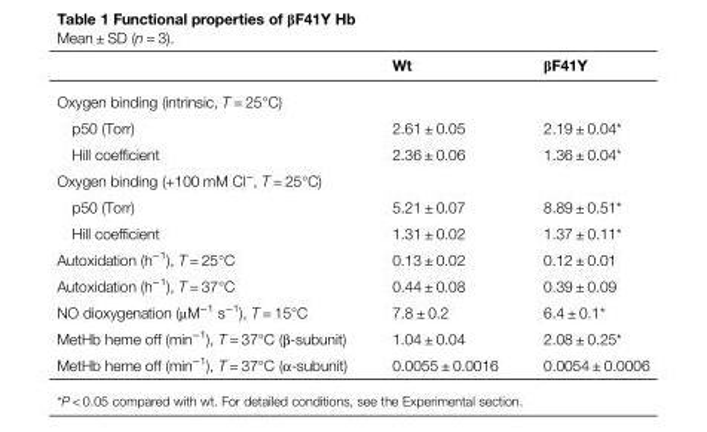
<table><thead><tr><td></td><td>Wt</td><td>βF41Y</td></tr></thead><tbody><tr><td colspan="3">Oxygen binding (intrinsic, T = 25°C)</td></tr><tr><td>p50 (Torr)</td><td>2.61 ± 0.05</td><td>2.19 ± 0.04*</td></tr><tr><td>Hill coefficient</td><td>2.36 ± 0.06</td><td>1.36 ± 0.04*</td></tr><tr><td colspan="3">Oxygen binding (+100 mM Cl<sup>−</sup>, T = 25°C)</td></tr><tr><td>p50 (Torr)</td><td>5.21 ± 0.07</td><td>8.89 ± 0.51*</td></tr><tr><td>Hill coefficient</td><td>1.31 ± 0.02</td><td>1.37 ± 0.11*</td></tr><tr><td>Autoxidation (h<sup>−1</sup>), T = 25°C</td><td>0.13 ± 0.02</td><td>0.12 ± 0.01</td></tr><tr><td>Autoxidation (h<sup>−1</sup>), T = 37°C</td><td>0.44 ± 0.08</td><td>0.39 ± 0.09</td></tr><tr><td>NO dioxygenation (μM<sup>−1</sup> s<sup>−1</sup>), T = 15°C</td><td>7.8 ± 0.2</td><td>6.4 ± 0.1*</td></tr><tr><td>MetHb heme off (min<sup>−1</sup>), T = 37°C (β-subunit)</td><td>1.04 ± 0.04</td><td>2.08 ± 0.25*</td></tr><tr><td>MetHb heme off (min<sup>−1</sup>), T = 37°C (α-subunit)</td><td>0.0055 ± 0.0016</td><td>0.0054 ± 0.0006</td></tr></tbody></table>